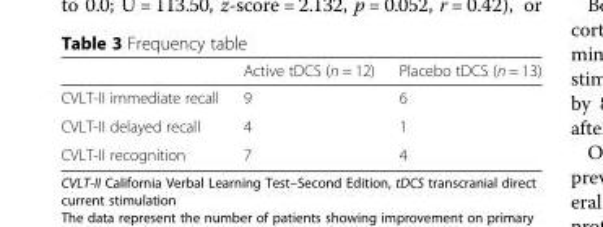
<table><thead><tr><td></td><td>Active tDCS (n = 12)</td><td>Placebo tDCS (n = 13)</td></tr></thead><tbody><tr><td>CVLT-II immediate recall</td><td>9</td><td>6</td></tr><tr><td>CVLT-II delayed recall</td><td>4</td><td>1</td></tr><tr><td>CVLT-II recognition</td><td>7</td><td>4</td></tr></tbody></table>